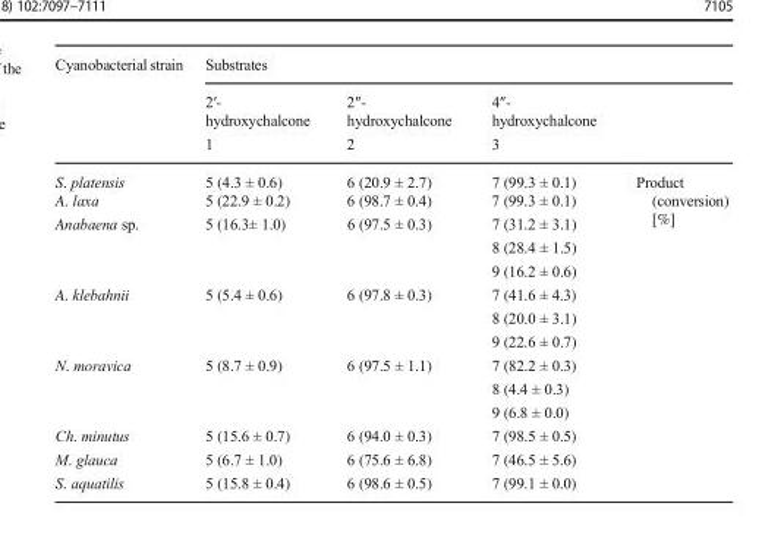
<table><thead><tr><td rowspan="2">Cyanobacterial strain</td><td colspan="4">Substrates</td></tr><tr><td>2′- hydroxychalcone 1</td><td>2″- hydroxychalcone 2</td><td>4″- hydroxychalcone 3</td><td></td></tr></thead><tbody><tr><td>S. platensis</td><td>5 (4.3 ± 0.6)</td><td>6 (20.9 ± 2.7)</td><td>7 (99.3 ± 0.1)</td><td rowspan="14">Product (conversion) [%]</td></tr><tr><td>A. laxa</td><td>5 (22.9 ± 0.2)</td><td>6 (98.7 ± 0.4)</td><td>7 (99.3 ± 0.1)</td></tr><tr><td rowspan="3">Anabaena sp.</td><td rowspan="3">5 (16.3± 1.0)</td><td rowspan="3">6 (97.5 ± 0.3)</td><td>7 (31.2 ± 3.1)</td></tr><tr><td>8 (28.4 ± 1.5)</td></tr><tr><td>9 (16.2 ± 0.6)</td></tr><tr><td rowspan="3">A. klebahnii</td><td rowspan="3">5 (5.4 ± 0.6)</td><td rowspan="3">6 (97.8 ± 0.3)</td><td>7 (41.6 ± 4.3)</td></tr><tr><td>8 (20.0 ± 3.1)</td></tr><tr><td>9 (22.6 ± 0.7)</td></tr><tr><td rowspan="3">N. moravica</td><td rowspan="3">5 (8.7 ± 0.9)</td><td rowspan="3">6 (97.5 ± 1.1)</td><td>7 (82.2 ± 0.3)</td></tr><tr><td>8 (4.4 ± 0.3)</td></tr><tr><td>9 (6.8 ± 0.0)</td></tr><tr><td>Ch. minutus</td><td>5 (15.6 ± 0.7)</td><td>6 (94.0 ± 0.3)</td><td>7 (98.5 ± 0.5)</td></tr><tr><td>M. glauca</td><td>5 (6.7 ± 1.0)</td><td>6 (75.6 ± 6.8)</td><td>7 (46.5 ± 5.6)</td></tr><tr><td>S. aquatilis</td><td>5 (15.8 ± 0.4)</td><td>6 (98.6 ± 0.5)</td><td>7 (99.1 ± 0.0)</td></tr></tbody></table>